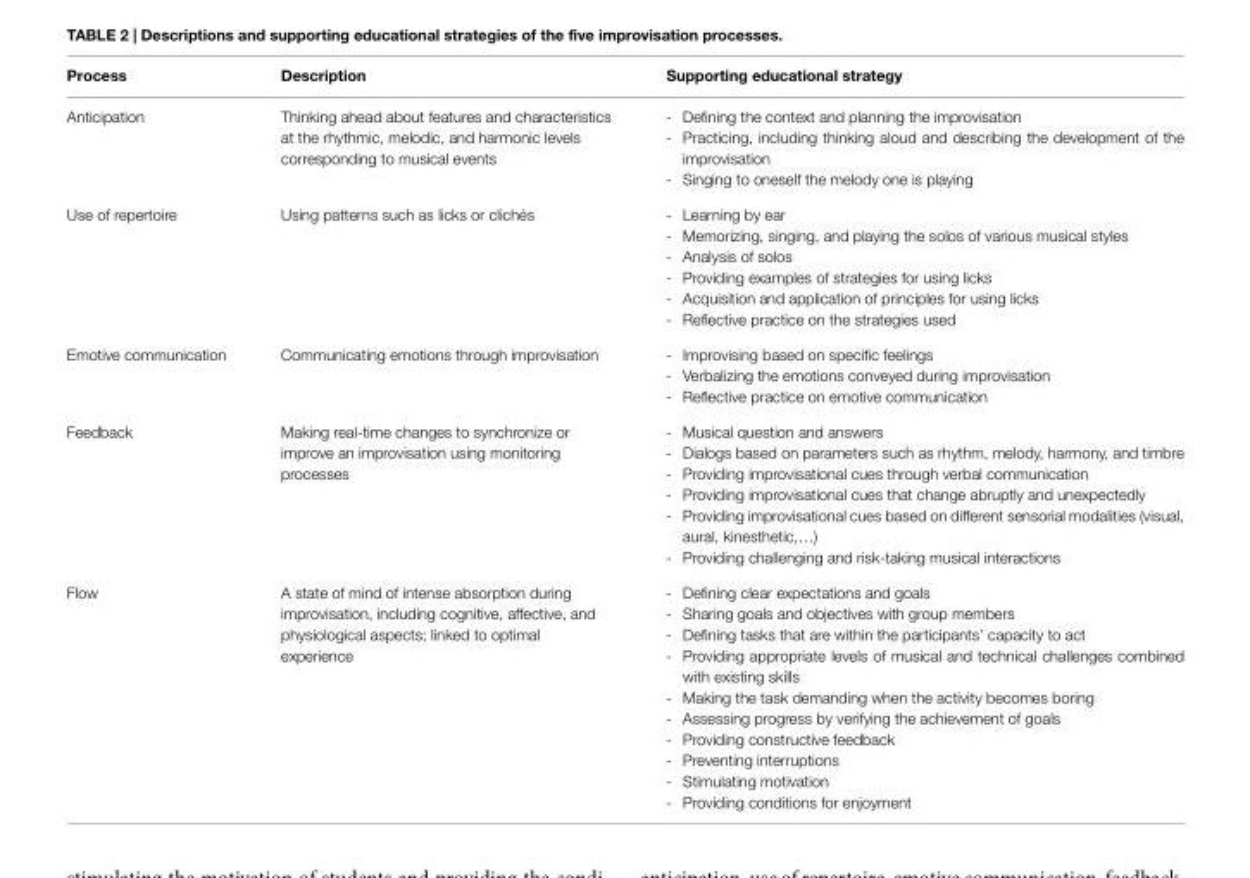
<table><thead><tr><td>Process</td><td>Description</td><td>Supporting educational strategy</td></tr></thead><tbody><tr><td>Anticipation</td><td>Thinking ahead about features and characteristics at the rhythmic, melodic, and harmonic levels corresponding to musical events</td><td>- Defining the context and planning the improvisation - Practicing, including thinking aloud and describing the development of the improvisation - Singing to oneself the melody one is playing</td></tr><tr><td>Use of repertoire</td><td>Using patterns such as licks or clichés</td><td>- Learning by ear - Memorizing, singing, and playing the solos of various musical styles - Analysis of solos - Providing examples of strategies for using licks - Acquisition and application of principles for using licks - Reflective practice on the strategies used</td></tr><tr><td>Emotive communication</td><td>Communicating emotions through improvisation</td><td>- Improvising based on specific feelings - Verbalizing the emotions conveyed during improvisation - Reflective practice on emotive communication</td></tr><tr><td>Feedback</td><td>Making real-time changes to synchronize or improve an improvisation using monitoring processes</td><td>- Musical question and answers - Dialogs based on parameters such as rhythm, melody, harmony, and timbre - Providing improvisational cues through verbal communication - Providing improvisational cues that change abruptly and unexpectedly - Providing improvisational cues based on different sensorial modalities (visual, aural, kinesthetic,…) - Providing challenging and risk-taking musical interactions</td></tr><tr><td>Flow</td><td>A state of mind of intense absorption during improvisation, including cognitive, affective, and physiological aspects; linked to optimal experience</td><td>- Defining clear expectations and goals - Sharing goals and objectives with group members - Defining tasks that are within the participants’ capacity to act - Providing appropriate levels of musical and technical challenges combined with existing skills - Making the task demanding when the activity becomes boring - Assessing progress by verifying the achievement of goals - Providing constructive feedback - Preventing interruptions - Stimulating motivation - Providing conditions for enjoyment</td></tr></tbody></table>